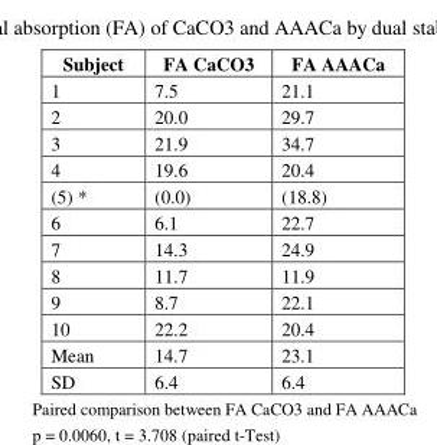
<table><thead><tr><td>Subject</td><td>FA CaCO3</td><td>FA AAACa</td></tr></thead><tbody><tr><td>1</td><td>7.5</td><td>21.1</td></tr><tr><td>2</td><td>20.0</td><td>29.7</td></tr><tr><td>3</td><td>21.9</td><td>34.7</td></tr><tr><td>4</td><td>19.6</td><td>20.4</td></tr><tr><td>(5) *</td><td>(0.0)</td><td>(18.8)</td></tr><tr><td>6</td><td>6.1</td><td>22.7</td></tr><tr><td>7</td><td>14.3</td><td>24.9</td></tr><tr><td>8</td><td>11.7</td><td>11.9</td></tr><tr><td>9</td><td>8.7</td><td>22.1</td></tr><tr><td>10</td><td>22.2</td><td>20.4</td></tr><tr><td>Mean</td><td>14.7</td><td>23.1</td></tr><tr><td>SD</td><td>6.4</td><td>6.4</td></tr></tbody></table>